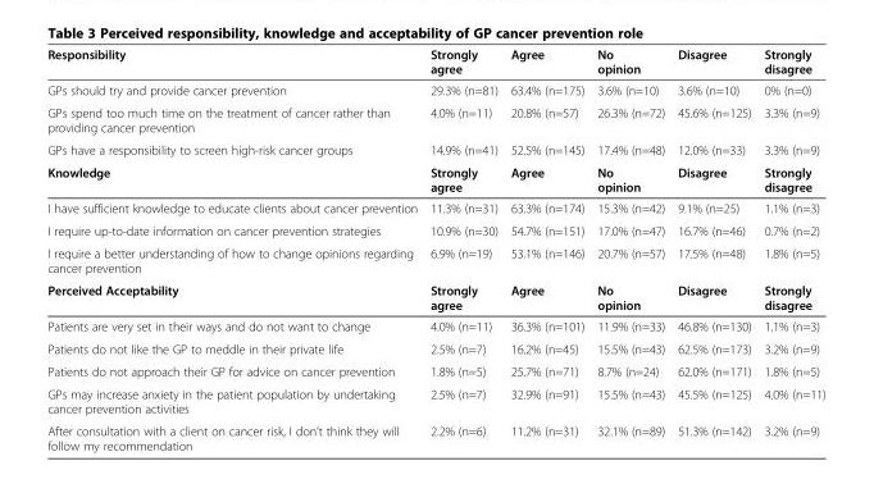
<table><thead><tr><td>Responsibility</td><td>Strongly agree</td><td>Agree</td><td>No opinion</td><td>Disagree</td><td>Strongly disagree</td></tr></thead><tbody><tr><td>GPs should try and provide cancer prevention</td><td>29.3% (n=81)</td><td>63.4% (n=175)</td><td>3.6% (n=10)</td><td>3.6% (n=10)</td><td>0% (n=0)</td></tr><tr><td>GPs spend too much time on the treatment of cancer rather than providing cancer prevention</td><td>4.0% (n=11)</td><td>20.8% (n=57)</td><td>26.3% (n=72)</td><td>45.6% (n=125)</td><td>3.3% (n=9)</td></tr><tr><td>GPs have a responsibility to screen high-risk cancer groups</td><td>14.9% (n=41)</td><td>52.5% (n=145)</td><td>17.4% (n=48)</td><td>12.0% (n=33)</td><td>3.3% (n=9)</td></tr><tr><td>Knowledge</td><td>Strongly agree</td><td>Agree</td><td>No opinion</td><td>Disagree</td><td>Strongly disagree</td></tr><tr><td>I have sufficient knowledge to educate clients about cancer prevention</td><td>11.3% (n=31)</td><td>63.3% (n=174)</td><td>15.3% (n=42)</td><td>9.1% (n=25)</td><td>1.1% (n=3)</td></tr><tr><td>I require up-to-date information on cancer prevention strategies</td><td>10.9% (n=30)</td><td>54.7% (n=151)</td><td>17.0% (n=47)</td><td>16.7% (n=46)</td><td>0.7% (n=2)</td></tr><tr><td>I require a better understanding of how to change opinions regarding cancer prevention</td><td>6.9% (n=19)</td><td>53.1% (n=146)</td><td>20.7% (n=57)</td><td>17.5% (n=48)</td><td>1.8% (n=5)</td></tr><tr><td>Perceived Acceptability</td><td>Strongly agree</td><td>Agree</td><td>No opinion</td><td>Disagree</td><td>Strongly disagree</td></tr><tr><td>Patients are very set in their ways and do not want to change</td><td>4.0% (n=11)</td><td>36.3% (n=101)</td><td>11.9% (n=33)</td><td>46.8% (n=130)</td><td>1.1% (n=3)</td></tr><tr><td>Patients do not like the GP to meddle in their private life</td><td>2.5% (n=7)</td><td>16.2% (n=45)</td><td>15.5% (n=43)</td><td>62.5% (n=173)</td><td>3.2% (n=9)</td></tr><tr><td>Patients do not approach their GP for advice on cancer prevention</td><td>1.8% (n=5)</td><td>25.7% (n=71)</td><td>8.7% (n=24)</td><td>62.0% (n=171)</td><td>1.8% (n=5)</td></tr><tr><td>GPs may increase anxiety in the patient population by undertaking cancer prevention activities</td><td>2.5% (n=7)</td><td>32.9% (n=91)</td><td>15.5% (n=43)</td><td>45.5% (n=125)</td><td>4.0% (n=11)</td></tr><tr><td>After consultation with a client on cancer risk, I don’t think they will follow my recommendation</td><td>2.2% (n=6)</td><td>11.2% (n=31)</td><td>32.1% (n=89)</td><td>51.3% (n=142)</td><td>3.2% (n=9)</td></tr></tbody></table>